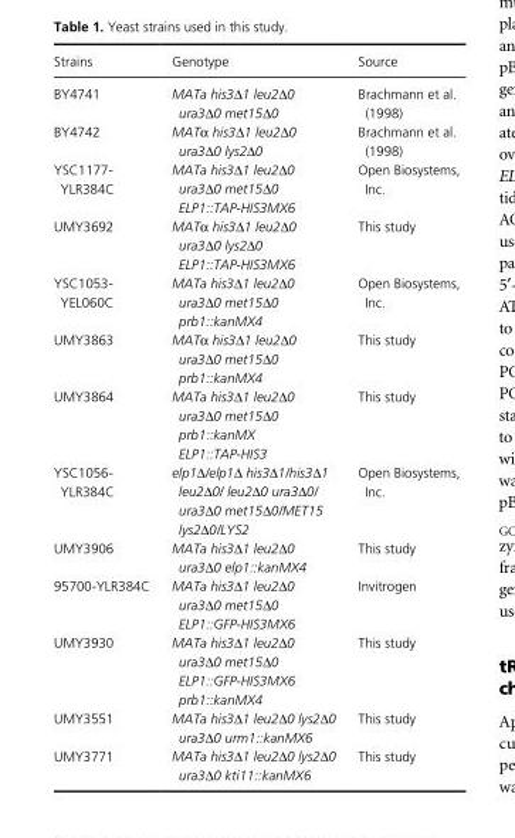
<table><thead><tr><td>Strains</td><td>Genotype</td><td>Source</td></tr></thead><tbody><tr><td>BY4741</td><td>MATa his3Δ1 leu2Δ0 ura3Δ0 met15Δ0</td><td>Brachmann et al. (1998)</td></tr><tr><td>BY4742</td><td>MATα his3Δ1 leu2Δ0 ura3Δ0 lys2Δ0</td><td>Brachmann et al. (1998)</td></tr><tr><td>YSC1177- YLR384C</td><td>MATa his3Δ1 leu2Δ0 ura3Δ0 met15Δ0 ELP1::TAP-HIS3MX6</td><td>Open Biosystems, Inc.</td></tr><tr><td>UMY3692</td><td>MATα his3Δ1 leu2Δ0 ura3Δ0 lys2Δ0 ELP1::TAP-HIS3MX6</td><td>This study</td></tr><tr><td>YSC1053- YEL060C</td><td>MATa his3Δ1 leu2Δ0 ura3Δ0 met15Δ0 prb1::kanMX4</td><td>Open Biosystems, Inc.</td></tr><tr><td>UMY3863</td><td>MATα his3Δ1 leu2Δ0 ura3Δ0 met15Δ0 prb1::kanMX4</td><td>This study</td></tr><tr><td>UMY3864</td><td>MATa his3Δ1 leu2Δ0 ura3Δ0 met15Δ0 prb1::kanMX ELP1::TAP-HIS3</td><td>This study</td></tr><tr><td>YSC1056- YLR384C</td><td>elp1Δ/elp1Δ his3Δ1/his3Δ1 leu2Δ0/ leu2Δ0 ura3Δ0/ ura3Δ0 met15Δ0/MET15 lys2Δ0/LYS2</td><td>Open Biosystems, Inc.</td></tr><tr><td>UMY3906</td><td>MATa his3Δ1 leu2Δ0 ura3Δ0 elp1::kanMX4</td><td>This study</td></tr><tr><td>95700- YLR384C</td><td>MATa his3Δ1 leu2Δ0 ura3Δ0 met15Δ0 ELP1::GFP-HIS3MX6</td><td>Invitrogen</td></tr><tr><td>UMY3930</td><td>MATa his3Δ1 leu2Δ0 ura3Δ0 met15Δ0 ELP1::GFP-HIS3MX6 prb1::kanMX4</td><td>This study</td></tr><tr><td>UMY3551</td><td>MATa his3Δ1 leu2Δ0 lys2Δ0 ura3Δ0 urm1::kanMX6</td><td>This study</td></tr><tr><td>UMY3771</td><td>MATa his3Δ1 leu2Δ0 lys2Δ0 ura3Δ0 kti11::kanMX6</td><td>This study</td></tr></tbody></table>